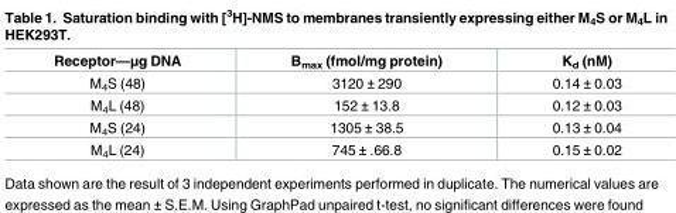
<table><thead><tr><td>Receptor—μg DNA</td><td>B<sub>max</sub> (fmol/mg protein)</td><td>K<sub>d</sub> (nM)</td></tr></thead><tbody><tr><td>M<sub>4</sub>S (48)</td><td>3120 ± 290</td><td>0.14 ± 0.03</td></tr><tr><td>M<sub>4</sub>L (48)</td><td>152 ± 13.8</td><td>0.12 ± 0.03</td></tr><tr><td>M<sub>4</sub>S (24)</td><td>1305 ± 38.5</td><td>0.13 ± 0.04</td></tr><tr><td>M<sub>4</sub>L (24)</td><td>745 ± .66.8</td><td>0.15 ± 0.02</td></tr></tbody></table>